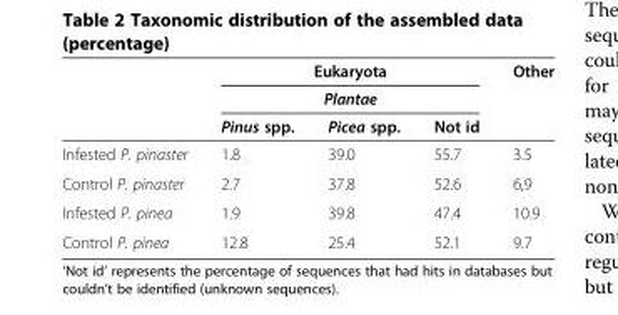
<table><thead><tr><td rowspan="3"></td><td rowspan="2" colspan="3">Eukaryota Plantae</td><td rowspan="3">Other</td></tr><tr></tr><tr><td>Pinus spp.</td><td>Picea spp.</td><td>Not id</td></tr></thead><tbody><tr><td>Infested P. pinaster</td><td>1.8</td><td>39.0</td><td>55.7</td><td>3.5</td></tr><tr><td>Control P. pinaster</td><td>2.7</td><td>37.8</td><td>52.6</td><td>6,9</td></tr><tr><td>Infested P. pinea</td><td>1.9</td><td>39.8</td><td>47.4</td><td>10.9</td></tr><tr><td>Control P. pinea</td><td>12.8</td><td>25.4</td><td>52.1</td><td>9.7</td></tr></tbody></table>